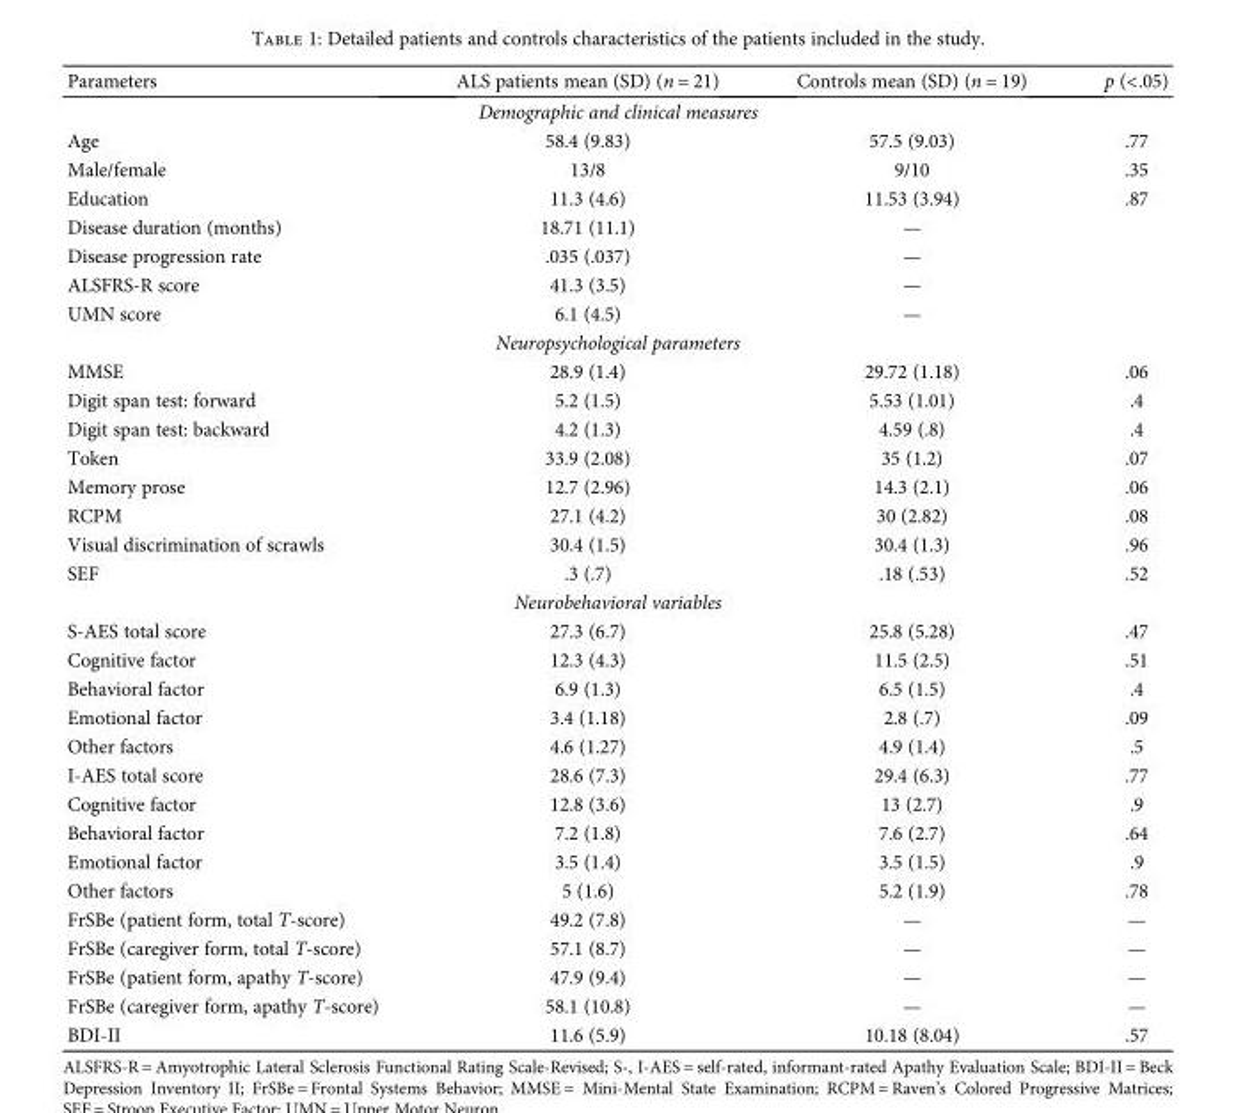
<table><thead><tr><td>Parameters</td><td>ALS patients mean (SD) (n = 21)</td><td>Controls mean (SD) (n = 19)</td><td>p (&lt;.05)</td></tr></thead><tbody><tr><td colspan="4">Demographic and clinical measures</td></tr><tr><td>Age</td><td>58.4 (9.83)</td><td>57.5 (9.03)</td><td>.77</td></tr><tr><td>Male/female</td><td>13/8</td><td>9/10</td><td>.35</td></tr><tr><td>Education</td><td>11.3 (4.6)</td><td>11.53 (3.94)</td><td>.87</td></tr><tr><td>Disease duration (months)</td><td>18.71 (11.1)</td><td>—</td><td></td></tr><tr><td>Disease progression rate</td><td>.035 (.037)</td><td>—</td><td></td></tr><tr><td>ALSFRS-R score</td><td>41.3 (3.5)</td><td>—</td><td></td></tr><tr><td>UMN score</td><td>6.1 (4.5)</td><td>—</td><td></td></tr><tr><td colspan="4">Neuropsychological parameters</td></tr><tr><td>MMSE</td><td>28.9 (1.4)</td><td>29.72 (1.18)</td><td>.06</td></tr><tr><td>Digit span test: forward</td><td>5.2 (1.5)</td><td>5.53 (1.01)</td><td>.4</td></tr><tr><td>Digit span test: backward</td><td>4.2 (1.3)</td><td>4.59 (.8)</td><td>.4</td></tr><tr><td>Token</td><td>33.9 (2.08)</td><td>35 (1.2)</td><td>.07</td></tr><tr><td>Memory prose</td><td>12.7 (2.96)</td><td>14.3 (2.1)</td><td>.06</td></tr><tr><td>RCPM</td><td>27.1 (4.2)</td><td>30 (2.82)</td><td>.08</td></tr><tr><td>Visual discrimination of scrawls</td><td>30.4 (1.5)</td><td>30.4 (1.3)</td><td>.96</td></tr><tr><td>SEF</td><td>.3 (.7)</td><td>.18 (.53)</td><td>.52</td></tr><tr><td colspan="4">Neurobehavioral variables</td></tr><tr><td>S-AES total score</td><td>27.3 (6.7)</td><td>25.8 (5.28)</td><td>.47</td></tr><tr><td>Cognitive factor</td><td>12.3 (4.3)</td><td>11.5 (2.5)</td><td>.51</td></tr><tr><td>Behavioral factor</td><td>6.9 (1.3)</td><td>6.5 (1.5)</td><td>.4</td></tr><tr><td>Emotional factor</td><td>3.4 (1.18)</td><td>2.8 (.7)</td><td>.09</td></tr><tr><td>Other factors</td><td>4.6 (1.27)</td><td>4.9 (1.4)</td><td>.5</td></tr><tr><td>I-AES total score</td><td>28.6 (7.3)</td><td>29.4 (6.3)</td><td>.77</td></tr><tr><td>Cognitive factor</td><td>12.8 (3.6)</td><td>13 (2.7)</td><td>.9</td></tr><tr><td>Behavioral factor</td><td>7.2 (1.8)</td><td>7.6 (2.7)</td><td>.64</td></tr><tr><td>Emotional factor</td><td>3.5 (1.4)</td><td>3.5 (1.5)</td><td>.9</td></tr><tr><td>Other factors</td><td>5 (1.6)</td><td>5.2 (1.9)</td><td>.78</td></tr><tr><td>FrSBe (patient form, total T-score)</td><td>49.2 (7.8)</td><td>—</td><td>—</td></tr><tr><td>FrSBe (caregiver form, total T-score)</td><td>57.1 (8.7)</td><td>—</td><td>—</td></tr><tr><td>FrSBe (patient form, apathy T-score)</td><td>47.9 (9.4)</td><td>—</td><td>—</td></tr><tr><td>FrSBe (caregiver form, apathy T-score)</td><td>58.1 (10.8)</td><td>—</td><td>—</td></tr><tr><td>BDI-II</td><td>11.6 (5.9)</td><td>10.18 (8.04)</td><td>.57</td></tr></tbody></table>